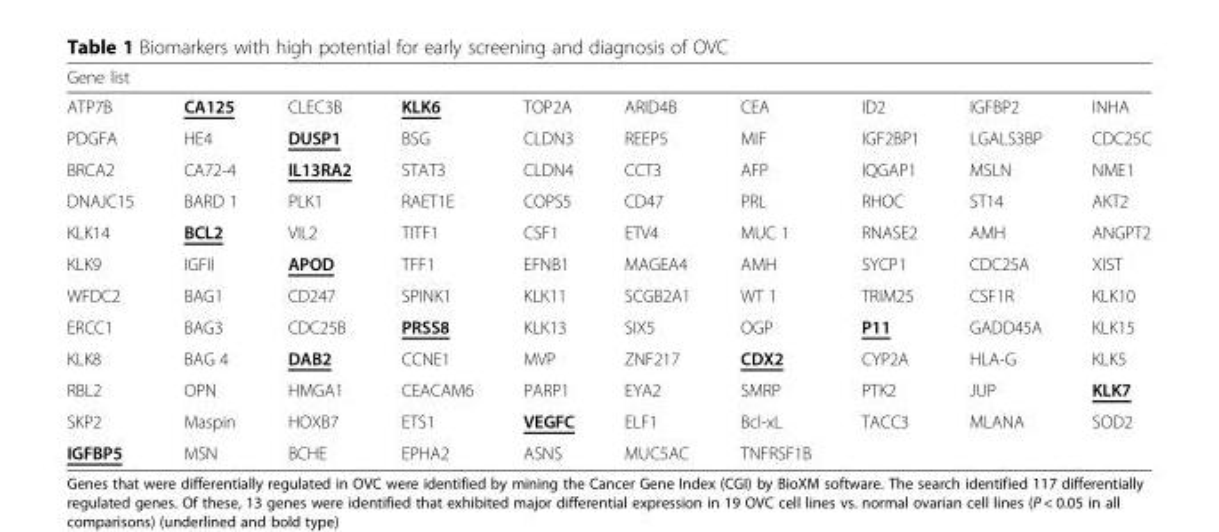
<table><thead><tr><td colspan="10">Gene list</td></tr><tr><td>ATP7B</td><td>CA125</td><td>CLEC3B</td><td>KLK6</td><td>TOP2A</td><td>ARID4B</td><td>CEA</td><td>ID2</td><td>IGFBP2</td><td>INHA</td></tr></thead><tbody><tr><td>PDGFA</td><td>HE4</td><td>DUSP1</td><td>BSG</td><td>CLDN3</td><td>REEP5</td><td>MIF</td><td>IGF2BP1</td><td>LGALS3BP</td><td>CDC25C</td></tr><tr><td>BRCA2</td><td>CA72-4</td><td>IL13RA2</td><td>STAT3</td><td>CLDN4</td><td>CCT3</td><td>AFP</td><td>IQGAP1</td><td>MSLN</td><td>NME1</td></tr><tr><td>DNAJC15</td><td>BARD 1</td><td>PLK1</td><td>RAET1E</td><td>COPS5</td><td>CD47</td><td>PRL</td><td>RHOC</td><td>ST14</td><td>AKT2</td></tr><tr><td>KLK14</td><td>BCL2</td><td>VIL2</td><td>TITF1</td><td>CSF1</td><td>ETV4</td><td>MUC 1</td><td>RNASE2</td><td>AMH</td><td>ANGPT2</td></tr><tr><td>KLK9</td><td>IGFII</td><td>APOD</td><td>TFF1</td><td>EFNB1</td><td>MAGEA4</td><td>AMH</td><td>SYCP1</td><td>CDC25A</td><td>XIST</td></tr><tr><td>WFDC2</td><td>BAG1</td><td>CD247</td><td>SPINK1</td><td>KLK11</td><td>SCGB2A1</td><td>WT 1</td><td>TRIM25</td><td>CSF1R</td><td>KLK10</td></tr><tr><td>ERCC1</td><td>BAG3</td><td>CDC25B</td><td>PRSS8</td><td>KLK13</td><td>SIX5</td><td>OGP</td><td>P11</td><td>GADD45A</td><td>KLK15</td></tr><tr><td>KLK8</td><td>BAG 4</td><td>DAB2</td><td>CCNE1</td><td>MVP</td><td>ZNF217</td><td>CDX2</td><td>CYP2A</td><td>HLA-G</td><td>KLK5</td></tr><tr><td>RBL2</td><td>OPN</td><td>HMGA1</td><td>CEACAM6</td><td>PARP1</td><td>EYA2</td><td>SMRP</td><td>PTK2</td><td>JUP</td><td>KLK7</td></tr><tr><td>SKP2</td><td>Maspin</td><td>HOXB7</td><td>ETS1</td><td>VEGFC</td><td>ELF1</td><td>Bcl-xL</td><td>TACC3</td><td>MLANA</td><td>SOD2</td></tr><tr><td>IGFBP5</td><td>MSN</td><td>BCHE</td><td>EPHA2</td><td>ASNS</td><td>MUC5AC</td><td>TNFRSF1B</td><td></td><td></td><td></td></tr></tbody></table>